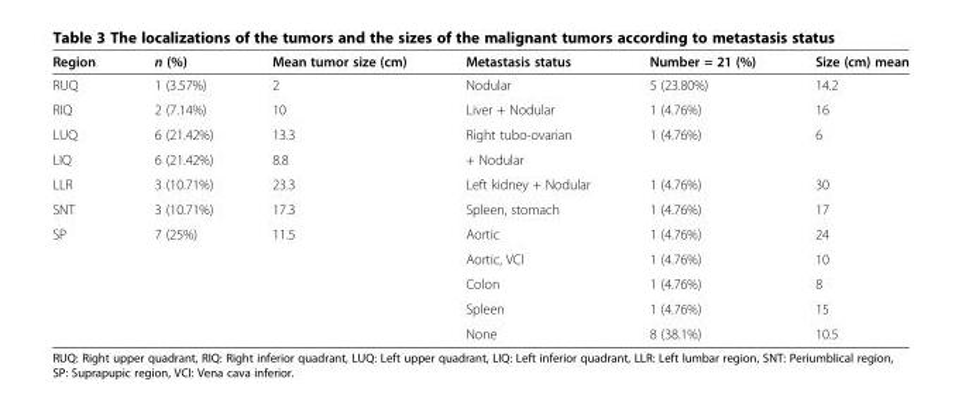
<table><thead><tr><td>Region</td><td>n (%)</td><td>Mean tumor size (cm)</td><td>Metastasis status</td><td>Number = 21 (%)</td><td>Size (cm) mean</td></tr></thead><tbody><tr><td>RUQ</td><td>1 (3.57%)</td><td>2</td><td>Nodular</td><td>5 (23.80%)</td><td>14.2</td></tr><tr><td>RIQ</td><td>2 (7.14%)</td><td>10</td><td>Liver + Nodular</td><td>1 (4.76%)</td><td>16</td></tr><tr><td>LUQ</td><td>6 (21.42%)</td><td>13.3</td><td>Right tubo-ovarian</td><td>1 (4.76%)</td><td>6</td></tr><tr><td>LIQ</td><td>6 (21.42%)</td><td>8.8</td><td>+ Nodular</td><td></td><td></td></tr><tr><td>LLR</td><td>3 (10.71%)</td><td>23.3</td><td>Left kidney + Nodular</td><td>1 (4.76%)</td><td>30</td></tr><tr><td>SNT</td><td>3 (10.71%)</td><td>17.3</td><td>Spleen, stomach</td><td>1 (4.76%)</td><td>17</td></tr><tr><td rowspan="5">SP</td><td>7 (25%)</td><td>11.5</td><td>Aortic</td><td>1 (4.76%)</td><td>24</td></tr><tr><td></td><td></td><td>Aortic, VCI</td><td>1 (4.76%)</td><td>10</td></tr><tr><td></td><td></td><td>Colon</td><td>1 (4.76%)</td><td>8</td></tr><tr><td></td><td></td><td>Spleen</td><td>1 (4.76%)</td><td>15</td></tr><tr><td></td><td></td><td>None</td><td>8 (38.1%)</td><td>10.5</td></tr></tbody></table>